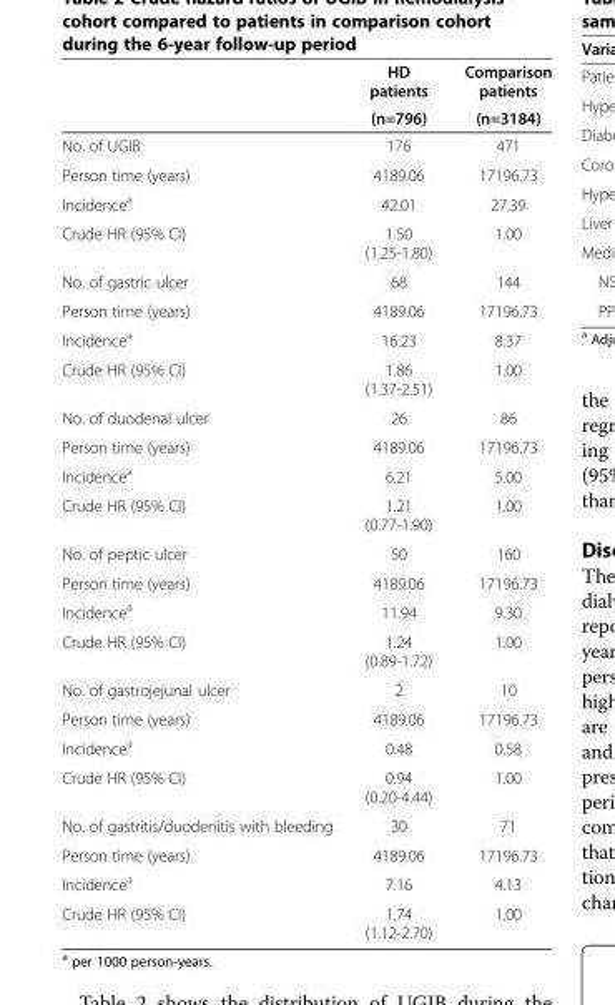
<table><thead><tr><td rowspan="2"></td><td rowspan="2">HD patients (n=796)</td><td rowspan="2">Comparison patients (n=3184)</td></tr><tr></tr></thead><tbody><tr><td>No. of UGIB</td><td>176</td><td>471</td></tr><tr><td>Person time (years)</td><td>4189.06</td><td>17196.73</td></tr><tr><td>Incidence<sup>a</sup></td><td>42.01</td><td>27.39</td></tr><tr><td>Crude HR (95% CI)</td><td>1.50 (1.25-1.80)</td><td>1.00</td></tr><tr><td>No. of gastric ulcer</td><td>68</td><td>144</td></tr><tr><td>Person time (years)</td><td>4189.06</td><td>17196.73</td></tr><tr><td>Incidence<sup>a</sup></td><td>16.23</td><td>8.37</td></tr><tr><td>Crude HR (95% CI)</td><td>1.86 (1.37-2.51)</td><td>1.00</td></tr><tr><td>No. of duodenal ulcer</td><td>26</td><td>86</td></tr><tr><td>Person time (years)</td><td>4189.06</td><td>17196.73</td></tr><tr><td>Incidence<sup>a</sup></td><td>6.21</td><td>5.00</td></tr><tr><td>Crude HR (95% CI)</td><td>1.21 (0.77-1.90)</td><td>1.00</td></tr><tr><td>No. of peptic ulcer</td><td>50</td><td>160</td></tr><tr><td>Person time (years)</td><td>4189.06</td><td>17196.73</td></tr><tr><td>Incidence<sup>a</sup></td><td>11.94</td><td>9.30</td></tr><tr><td>Crude HR (95% CI)</td><td>1.24 (0.89-1.72)</td><td>1.00</td></tr><tr><td>No. of gastrojejunal ulcer</td><td>2</td><td>10</td></tr><tr><td>Person time (years)</td><td>4189.06</td><td>17196.73</td></tr><tr><td>Incidence<sup>a</sup></td><td>0.48</td><td>0.58</td></tr><tr><td>Crude HR (95% CI)</td><td>0.94 (0.20-4.44)</td><td>1.00</td></tr><tr><td>No. of gastritis/duodenitis with bleeding</td><td>30</td><td>71</td></tr><tr><td>Person time (years)</td><td>4189.06</td><td>17196.73</td></tr><tr><td>Incidence<sup>a</sup></td><td>7.16</td><td>4.13</td></tr><tr><td>Crude HR (95% CI)</td><td>1.74 (1.12-2.70)</td><td>1.00</td></tr></tbody></table>